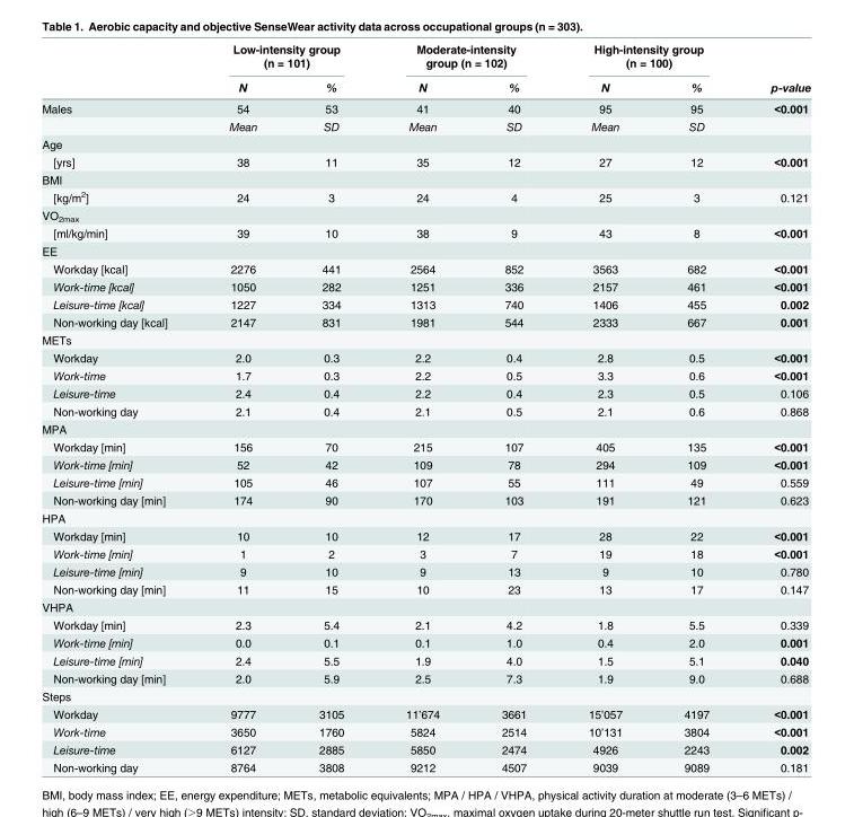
<table><thead><tr><td rowspan="2"></td><td colspan="2">Low-intensity group (n = 101)</td><td colspan="2">Moderate-intensity group (n = 102)</td><td colspan="2">High-intensity group (n = 100)</td><td rowspan="2">p-value</td></tr><tr><td>N</td><td>%</td><td>N</td><td>%</td><td>N</td><td>%</td></tr></thead><tbody><tr><td rowspan="2">Males</td><td>54</td><td>53</td><td>41</td><td>40</td><td>95</td><td>95</td><td>&lt;0.001</td></tr><tr><td>Mean</td><td>SD</td><td>Mean</td><td>SD</td><td>Mean</td><td>SD</td><td></td></tr><tr><td colspan="8">Age</td></tr><tr><td>[yrs]</td><td>38</td><td>11</td><td>35</td><td>12</td><td>27</td><td>12</td><td>&lt;0.001</td></tr><tr><td colspan="8">BMI</td></tr><tr><td>[kg/m<sup>2</sup>]</td><td>24</td><td>3</td><td>24</td><td>4</td><td>25</td><td>3</td><td>0.121</td></tr><tr><td colspan="8">VO<sub>2max</sub></td></tr><tr><td>[ml/kg/min]</td><td>39</td><td>10</td><td>38</td><td>9</td><td>43</td><td>8</td><td>&lt;0.001</td></tr><tr><td colspan="8">EE</td></tr><tr><td>Workday [kcal]</td><td>2276</td><td>441</td><td>2564</td><td>852</td><td>3563</td><td>682</td><td>&lt;0.001</td></tr><tr><td>Work-time [kcal]</td><td>1050</td><td>282</td><td>1251</td><td>336</td><td>2157</td><td>461</td><td>&lt;0.001</td></tr><tr><td>Leisure-time [kcal]</td><td>1227</td><td>334</td><td>1313</td><td>740</td><td>1406</td><td>455</td><td>0.002</td></tr><tr><td>Non-working day [kcal]</td><td>2147</td><td>831</td><td>1981</td><td>544</td><td>2333</td><td>667</td><td>0.001</td></tr><tr><td colspan="8">METs</td></tr><tr><td>Workday</td><td>2.0</td><td>0.3</td><td>2.2</td><td>0.4</td><td>2.8</td><td>0.5</td><td>&lt;0.001</td></tr><tr><td>Work-time</td><td>1.7</td><td>0.3</td><td>2.2</td><td>0.5</td><td>3.3</td><td>0.6</td><td>&lt;0.001</td></tr><tr><td>Leisure-time</td><td>2.4</td><td>0.4</td><td>2.2</td><td>0.4</td><td>2.3</td><td>0.5</td><td>0.106</td></tr><tr><td>Non-working day</td><td>2.1</td><td>0.4</td><td>2.1</td><td>0.5</td><td>2.1</td><td>0.6</td><td>0.868</td></tr><tr><td colspan="8">MPA</td></tr><tr><td>Workday [min]</td><td>156</td><td>70</td><td>215</td><td>107</td><td>405</td><td>135</td><td>&lt;0.001</td></tr><tr><td>Work-time [min]</td><td>52</td><td>42</td><td>109</td><td>78</td><td>294</td><td>109</td><td>&lt;0.001</td></tr><tr><td>Leisure-time [min]</td><td>105</td><td>46</td><td>107</td><td>55</td><td>111</td><td>49</td><td>0.559</td></tr><tr><td>Non-working day [min]</td><td>174</td><td>90</td><td>170</td><td>103</td><td>191</td><td>121</td><td>0.623</td></tr><tr><td colspan="8">HPA</td></tr><tr><td>Workday [min]</td><td>10</td><td>10</td><td>12</td><td>17</td><td>28</td><td>22</td><td>&lt;0.001</td></tr><tr><td>Work-time [min]</td><td>1</td><td>2</td><td>3</td><td>7</td><td>19</td><td>18</td><td>&lt;0.001</td></tr><tr><td>Leisure-time [min]</td><td>9</td><td>10</td><td>9</td><td>13</td><td>9</td><td>10</td><td>0.780</td></tr><tr><td>Non-working day [min]</td><td>11</td><td>15</td><td>10</td><td>23</td><td>13</td><td>17</td><td>0.147</td></tr><tr><td colspan="8">VHPA</td></tr><tr><td>Workday [min]</td><td>2.3</td><td>5.4</td><td>2.1</td><td>4.2</td><td>1.8</td><td>5.5</td><td>0.339</td></tr><tr><td>Work-time [min]</td><td>0.0</td><td>0.1</td><td>0.1</td><td>1.0</td><td>0.4</td><td>2.0</td><td>0.001</td></tr><tr><td>Leisure-time [min]</td><td>2.4</td><td>5.5</td><td>1.9</td><td>4.0</td><td>1.5</td><td>5.1</td><td>0.040</td></tr><tr><td>Non-working day [min]</td><td>2.0</td><td>5.9</td><td>2.5</td><td>7.3</td><td>1.9</td><td>9.0</td><td>0.688</td></tr><tr><td colspan="8">Steps</td></tr><tr><td>Workday</td><td>9777</td><td>3105</td><td>11’674</td><td>3661</td><td>15’057</td><td>4197</td><td>&lt;0.001</td></tr><tr><td>Work-time</td><td>3650</td><td>1760</td><td>5824</td><td>2514</td><td>10’131</td><td>3804</td><td>&lt;0.001</td></tr><tr><td>Leisure-time</td><td>6127</td><td>2885</td><td>5850</td><td>2474</td><td>4926</td><td>2243</td><td>0.002</td></tr><tr><td>Non-working day</td><td>8764</td><td>3808</td><td>9212</td><td>4507</td><td>9039</td><td>9089</td><td>0.181</td></tr></tbody></table>